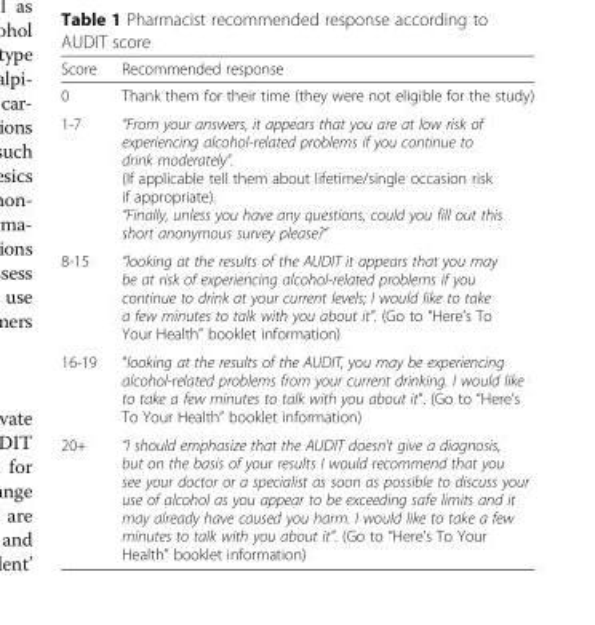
<table><thead><tr><td>Score</td><td>Recommended response</td></tr></thead><tbody><tr><td>0</td><td>Thank them for their time (they were not eligible for the study)</td></tr><tr><td>1-7</td><td>“From your answers, it appears that you are at low risk of experiencing alcohol-related problems if you continue to drink moderately”. (If applicable tell them about lifetime/single occasion risk if appropriate). “Finally, unless you have any questions, could you fill out this short anonymous survey please?”</td></tr><tr><td>8-15</td><td>“looking at the results of the AUDIT it appears that you may be at risk of experiencing alcohol-related problems if you continue to drink at your current levels; I would like to take a few minutes to talk with you about it”. (Go to “Here’s To Your Health” booklet information)</td></tr><tr><td>16-19</td><td>“looking at the results of the AUDIT, you may be experiencing alcohol-related problems from your current drinking. I would like to take a few minutes to talk with you about it”. (Go to “Here’s To Your Health” booklet information)</td></tr><tr><td>20+</td><td>“I should emphasize that the AUDIT doesn’t give a diagnosis, but on the basis of your results I would recommend that you see your doctor or a specialist as soon as possible to discuss your use of alcohol as you appear to be exceeding safe limits and it may already have caused you harm. I would like to take a few minutes to talk with you about it”. (Go to “Here’s To Your Health” booklet information)</td></tr></tbody></table>